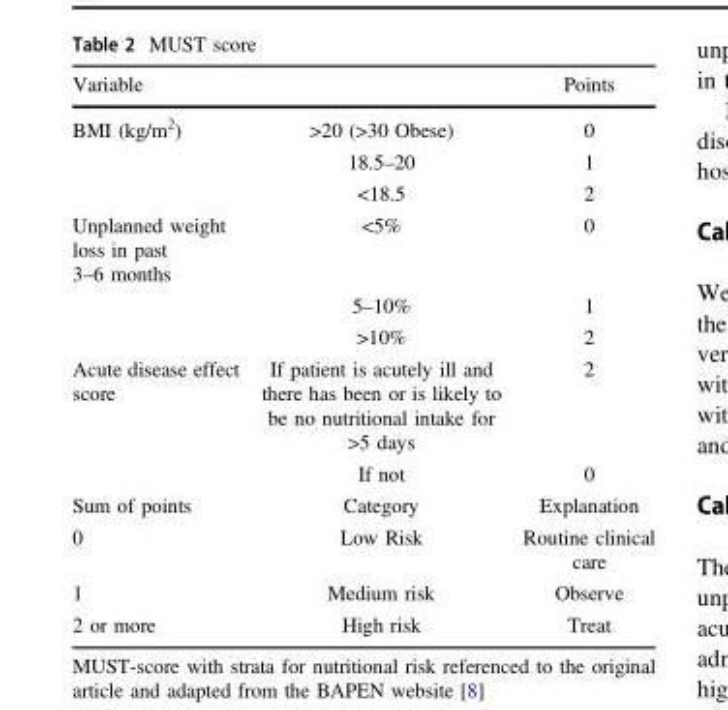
<table><thead><tr><td>Variable</td><td></td><td>Points</td></tr></thead><tbody><tr><td rowspan="3">BMI (kg/m<sup>2</sup>)</td><td>&gt;20 (&gt;30 Obese)</td><td>0</td></tr><tr><td>18.5–20</td><td>1</td></tr><tr><td>&lt;18.5</td><td>2</td></tr><tr><td rowspan="3">Unplanned weight loss in past 3–6 months</td><td>&lt;5%</td><td>0</td></tr><tr><td>5–10%</td><td>1</td></tr><tr><td>&gt;10%</td><td>2</td></tr><tr><td rowspan="2">Acute disease effect score</td><td>If patient is acutely ill and there has been or is likely to be no nutritional intake for &gt;5 days</td><td>2</td></tr><tr><td>If not</td><td>0</td></tr><tr><td>Sum of points</td><td>Category</td><td>Explanation</td></tr><tr><td>0</td><td>Low Risk</td><td>Routine clinical care</td></tr><tr><td>1</td><td>Medium risk</td><td>Observe</td></tr><tr><td>2 or more</td><td>High risk</td><td>Treat</td></tr></tbody></table>